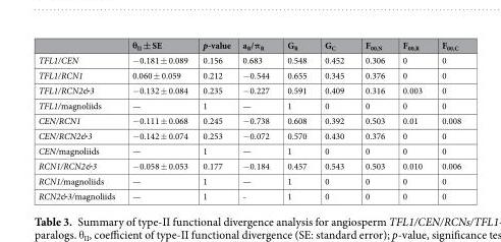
<table><thead><tr><td></td><td>θ<sub>II</sub> ± SE</td><td>p-value</td><td>a<sub>R</sub>/π<sub>R</sub></td><td>G<sub>R</sub></td><td>G<sub>C</sub></td><td>F<sub>00,N</sub></td><td>F<sub>00,R</sub></td><td>F<sub>00,C</sub></td></tr></thead><tbody><tr><td>TFL1/CEN</td><td>−0.181 ± 0.089</td><td>0.156</td><td>0.683</td><td>0.548</td><td>0.452</td><td>0.306</td><td>0</td><td>0</td></tr><tr><td>TFL1/RCN1</td><td>0.060 ± 0.059</td><td>0.212</td><td>−0.544</td><td>0.655</td><td>0.345</td><td>0.376</td><td>0</td><td>0</td></tr><tr><td>TFL1/RCN2&amp;3</td><td>−0.132 ± 0.084</td><td>0.235</td><td>−0.227</td><td>0.591</td><td>0.409</td><td>0.316</td><td>0.003</td><td>0</td></tr><tr><td>TFL1/magnoliids</td><td>—</td><td>1</td><td>—</td><td>1</td><td>0</td><td>0</td><td>0</td><td>0</td></tr><tr><td>CEN/RCN1</td><td>−0.111 ± 0.068</td><td>0.245</td><td>−0.738</td><td>0.608</td><td>0.392</td><td>0.503</td><td>0.01</td><td>0.008</td></tr><tr><td>CEN/RCN2&amp;3</td><td>−0.142 ± 0.074</td><td>0.253</td><td>−0.072</td><td>0.570</td><td>0.430</td><td>0.376</td><td>0</td><td>0</td></tr><tr><td>CEN/magnoliids</td><td>—</td><td>1</td><td>—</td><td>1</td><td>0</td><td>0</td><td>0</td><td>0</td></tr><tr><td>RCN1/RCN2&amp;3</td><td>−0.058 ± 0.053</td><td>0.177</td><td>−0.184</td><td>0.457</td><td>0.543</td><td>0.503</td><td>0.010</td><td>0.006</td></tr><tr><td>RCN1/magnoliids</td><td>—</td><td>1</td><td>—</td><td>1</td><td>0</td><td>0</td><td>0</td><td>0</td></tr><tr><td>RCN2&amp;3/magnoliids</td><td>—</td><td>1</td><td>-</td><td>1</td><td>0</td><td>0</td><td>0</td><td>0</td></tr></tbody></table>